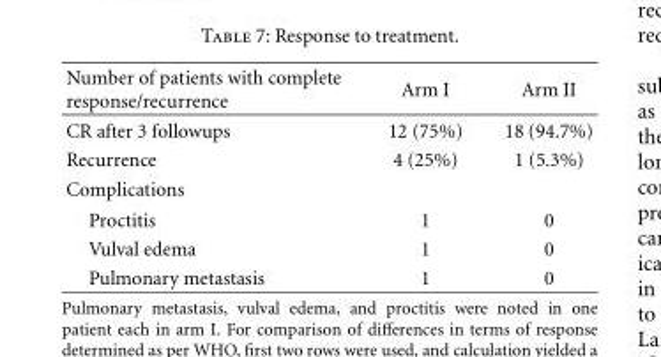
<table><thead><tr><td>Number of patients with complete response/recurrence</td><td>Arm I</td><td>Arm II</td></tr></thead><tbody><tr><td>CR after 3 followups</td><td>12 (75%)</td><td>18 (94.7%)</td></tr><tr><td>Recurrence</td><td>4 (25%)</td><td>1 (5.3%)</td></tr><tr><td colspan="3">Complications</td></tr><tr><td>Proctitis</td><td>1</td><td>0</td></tr><tr><td>Vulval edema</td><td>1</td><td>0</td></tr><tr><td>Pulmonary metastasis</td><td>1</td><td>0</td></tr></tbody></table>